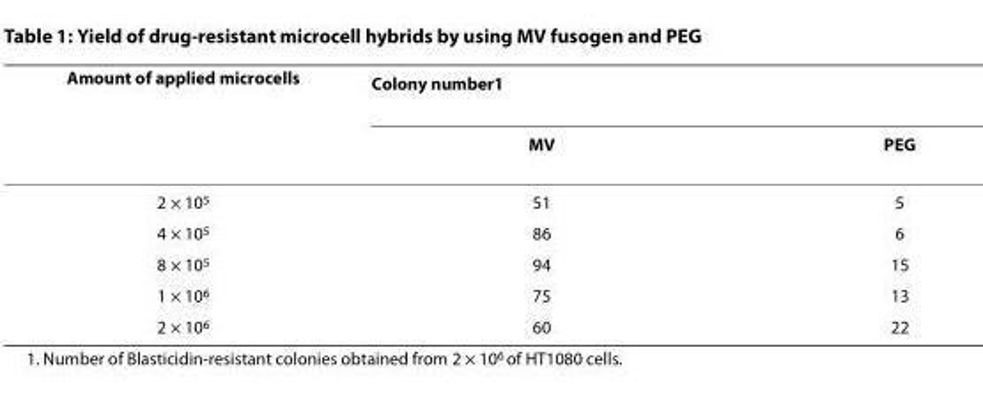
<table><thead><tr><td rowspan="2">Amount of applied microcells</td><td rowspan="2">Colony number<sup>1</sup> MV</td><td rowspan="2">PEG</td></tr><tr></tr></thead><tbody><tr><td>2 × 10<sup>5</sup></td><td>51</td><td>5</td></tr><tr><td>4 × 10<sup>5</sup></td><td>86</td><td>6</td></tr><tr><td>8 × 10<sup>5</sup></td><td>94</td><td>15</td></tr><tr><td>1 × 10<sup>6</sup></td><td>75</td><td>13</td></tr><tr><td>2 × 10<sup>6</sup></td><td>60</td><td>22</td></tr></tbody></table>